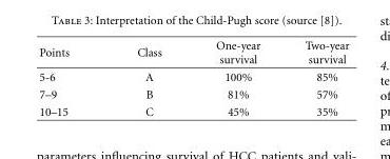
<table><thead><tr><td>Points</td><td>Class</td><td>One-year survival</td><td>Two-year survival</td></tr></thead><tbody><tr><td>5-6</td><td>A</td><td>100%</td><td>85%</td></tr><tr><td>7–9</td><td>B</td><td>81%</td><td>57%</td></tr><tr><td>10–15</td><td>C</td><td>45%</td><td>35%</td></tr></tbody></table>